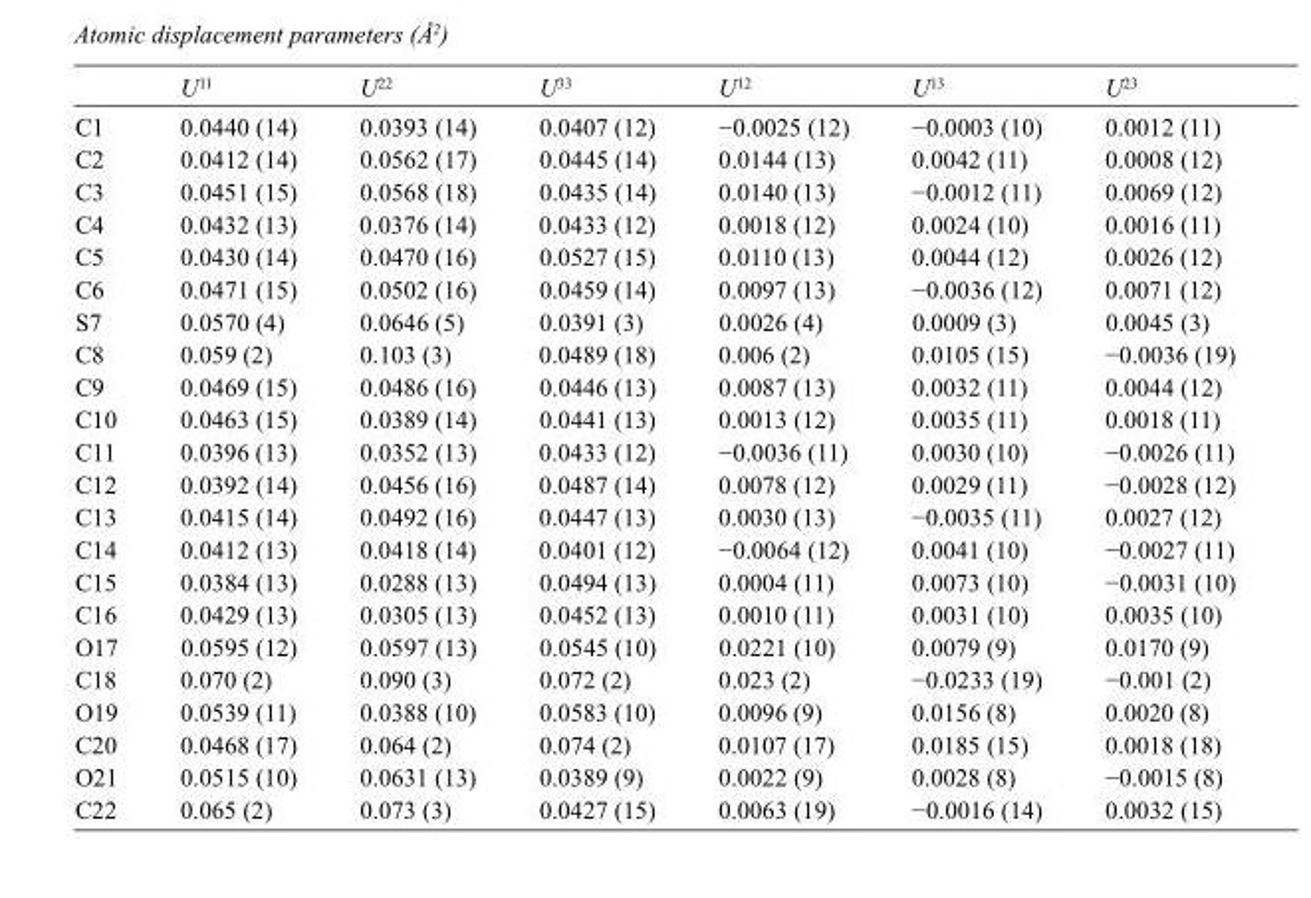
<table><thead><tr><td></td><td>U<sup>11</sup></td><td>U<sup>22</sup></td><td>U<sup>33</sup></td><td>U<sup>12</sup></td><td>U<sup>13</sup></td><td>U<sup>23</sup></td></tr></thead><tbody><tr><td>C1</td><td>0.0440 (14)</td><td>0.0393 (14)</td><td>0.0407 (12)</td><td>−0.0025 (12)</td><td>−0.0003 (10)</td><td>0.0012 (11)</td></tr><tr><td>C2</td><td>0.0412 (14)</td><td>0.0562 (17)</td><td>0.0445 (14)</td><td>0.0144 (13)</td><td>0.0042 (11)</td><td>0.0008 (12)</td></tr><tr><td>C3</td><td>0.0451 (15)</td><td>0.0568 (18)</td><td>0.0435 (14)</td><td>0.0140 (13)</td><td>−0.0012 (11)</td><td>0.0069 (12)</td></tr><tr><td>C4</td><td>0.0432 (13)</td><td>0.0376 (14)</td><td>0.0433 (12)</td><td>0.0018 (12)</td><td>0.0024 (10)</td><td>0.0016 (11)</td></tr><tr><td>C5</td><td>0.0430 (14)</td><td>0.0470 (16)</td><td>0.0527 (15)</td><td>0.0110 (13)</td><td>0.0044 (12)</td><td>0.0026 (12)</td></tr><tr><td>C6</td><td>0.0471 (15)</td><td>0.0502 (16)</td><td>0.0459 (14)</td><td>0.0097 (13)</td><td>−0.0036 (12)</td><td>0.0071 (12)</td></tr><tr><td>S7</td><td>0.0570 (4)</td><td>0.0646 (5)</td><td>0.0391 (3)</td><td>0.0026 (4)</td><td>0.0009 (3)</td><td>0.0045 (3)</td></tr><tr><td>C8</td><td>0.059 (2)</td><td>0.103 (3)</td><td>0.0489 (18)</td><td>0.006 (2)</td><td>0.0105 (15)</td><td>−0.0036 (19)</td></tr><tr><td>C9</td><td>0.0469 (15)</td><td>0.0486 (16)</td><td>0.0446 (13)</td><td>0.0087 (13)</td><td>0.0032 (11)</td><td>0.0044 (12)</td></tr><tr><td>C10</td><td>0.0463 (15)</td><td>0.0389 (14)</td><td>0.0441 (13)</td><td>0.0013 (12)</td><td>0.0035 (11)</td><td>0.0018 (11)</td></tr><tr><td>C11</td><td>0.0396 (13)</td><td>0.0352 (13)</td><td>0.0433 (12)</td><td>−0.0036 (11)</td><td>0.0030 (10)</td><td>−0.0026 (11)</td></tr><tr><td>C12</td><td>0.0392 (14)</td><td>0.0456 (16)</td><td>0.0487 (14)</td><td>0.0078 (12)</td><td>0.0029 (11)</td><td>−0.0028 (12)</td></tr><tr><td>C13</td><td>0.0415 (14)</td><td>0.0492 (16)</td><td>0.0447 (13)</td><td>0.0030 (13)</td><td>−0.0035 (11)</td><td>0.0027 (12)</td></tr><tr><td>C14</td><td>0.0412 (13)</td><td>0.0418 (14)</td><td>0.0401 (12)</td><td>−0.0064 (12)</td><td>0.0041 (10)</td><td>−0.0027 (11)</td></tr><tr><td>C15</td><td>0.0384 (13)</td><td>0.0288 (13)</td><td>0.0494 (13)</td><td>0.0004 (11)</td><td>0.0073 (10)</td><td>−0.0031 (10)</td></tr><tr><td>C16</td><td>0.0429 (13)</td><td>0.0305 (13)</td><td>0.0452 (13)</td><td>0.0010 (11)</td><td>0.0031 (10)</td><td>0.0035 (10)</td></tr><tr><td>O17</td><td>0.0595 (12)</td><td>0.0597 (13)</td><td>0.0545 (10)</td><td>0.0221 (10)</td><td>0.0079 (9)</td><td>0.0170 (9)</td></tr><tr><td>C18</td><td>0.070 (2)</td><td>0.090 (3)</td><td>0.072 (2)</td><td>0.023 (2)</td><td>−0.0233 (19)</td><td>−0.001 (2)</td></tr><tr><td>O19</td><td>0.0539 (11)</td><td>0.0388 (10)</td><td>0.0583 (10)</td><td>0.0096 (9)</td><td>0.0156 (8)</td><td>0.0020 (8)</td></tr><tr><td>C20</td><td>0.0468 (17)</td><td>0.064 (2)</td><td>0.074 (2)</td><td>0.0107 (17)</td><td>0.0185 (15)</td><td>0.0018 (18)</td></tr><tr><td>O21</td><td>0.0515 (10)</td><td>0.0631 (13)</td><td>0.0389 (9)</td><td>0.0022 (9)</td><td>0.0028 (8)</td><td>−0.0015 (8)</td></tr><tr><td>C22</td><td>0.065 (2)</td><td>0.073 (3)</td><td>0.0427 (15)</td><td>0.0063 (19)</td><td>−0.0016 (14)</td><td>0.0032 (15)</td></tr></tbody></table>